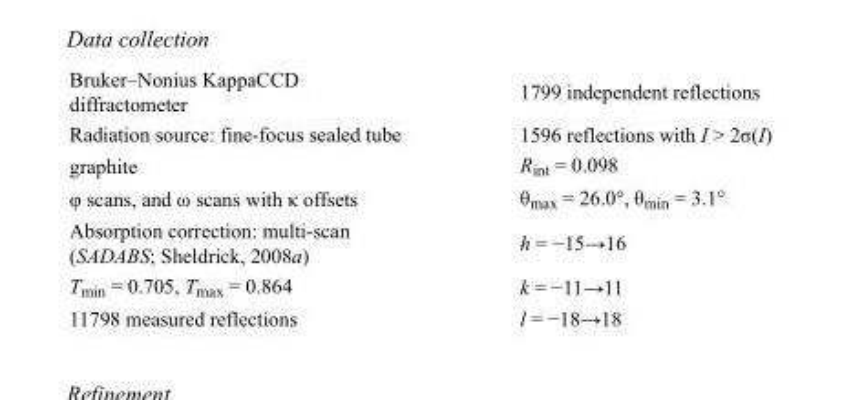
<table><tbody><tr><td>Bruker–Nonius KappaCCD diffractometer</td><td>1799 independent reflections</td></tr><tr><td>Radiation source: fine-focus sealed tube</td><td>1596 reflections with I &gt; 2σ(I)</td></tr><tr><td>graphite</td><td>R<sub>int</sub> = 0.098</td></tr><tr><td>φ scans, and ω scans with κ offsets</td><td>θ<sub>max</sub> = 26.0°, θ<sub>min</sub> = 3.1°</td></tr><tr><td>Absorption correction: multi-scan (SADABS; Sheldrick, 2008a)</td><td>h = −15→16</td></tr><tr><td>T<sub>min</sub> = 0.705, T<sub>max</sub> = 0.864</td><td>k = −11→11</td></tr><tr><td>11798 measured reflections</td><td>l = −18→18</td></tr></tbody></table>